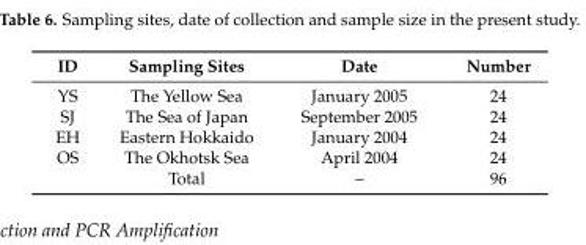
<table><thead><tr><td>ID</td><td>Sampling Sites</td><td>Date</td><td>Number</td></tr></thead><tbody><tr><td>YS</td><td>The Yellow Sea</td><td>January 2005</td><td>24</td></tr><tr><td>SJ</td><td>The Sea of Japan</td><td>September 2005</td><td>24</td></tr><tr><td>EH</td><td>Eastern Hokkaido</td><td>January 2004</td><td>24</td></tr><tr><td rowspan="2">OS</td><td>The Okhotsk Sea</td><td>April 2004</td><td>24</td></tr><tr><td>Total</td><td>–</td><td>96</td></tr></tbody></table>